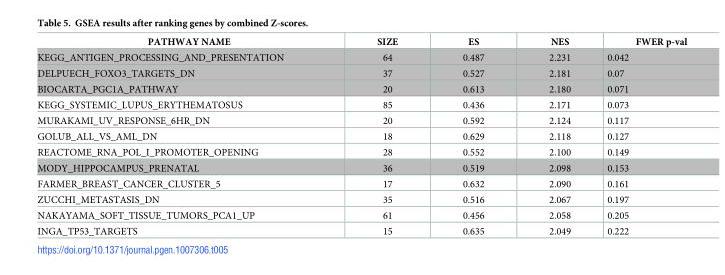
<table><thead><tr><td>PATHWAY NAME</td><td>SIZE</td><td>ES</td><td>NES</td><td>FWER p-val</td></tr></thead><tbody><tr><td>KEGG_ANTIGEN_PROCESSING_AND_PRESENTATION</td><td>64</td><td>0.487</td><td>2.231</td><td>0.042</td></tr><tr><td>DELPUECH_FOXO3_TARGETS_DN</td><td>37</td><td>0.527</td><td>2.181</td><td>0.07</td></tr><tr><td>BIOCARTA_PGC1A_PATHWAY</td><td>20</td><td>0.613</td><td>2.180</td><td>0.071</td></tr><tr><td>KEGG_SYSTEMIC_LUPUS_ERYTHEMATOSUS</td><td>85</td><td>0.436</td><td>2.171</td><td>0.073</td></tr><tr><td>MURAKAMI_UV_RESPONSE_6HR_DN</td><td>20</td><td>0.592</td><td>2.124</td><td>0.117</td></tr><tr><td>GOLUB_ALL_VS_AML_DN</td><td>18</td><td>0.629</td><td>2.118</td><td>0.127</td></tr><tr><td>REACTOME_RNA_POL_I_PROMOTER_OPENING</td><td>28</td><td>0.552</td><td>2.100</td><td>0.149</td></tr><tr><td>MODY_HIPPOCAMPUS_PRENATAL</td><td>36</td><td>0.519</td><td>2.098</td><td>0.153</td></tr><tr><td>FARMER_BREAST_CANCER_CLUSTER_5</td><td>17</td><td>0.632</td><td>2.090</td><td>0.161</td></tr><tr><td>ZUCCHI_METASTASIS_DN</td><td>35</td><td>0.516</td><td>2.067</td><td>0.197</td></tr><tr><td>NAKAYAMA_SOFT_TISSUE_TUMORS_PCA1_UP</td><td>61</td><td>0.456</td><td>2.058</td><td>0.205</td></tr><tr><td>INGA_TP53_TARGETS</td><td>15</td><td>0.635</td><td>2.049</td><td>0.222</td></tr></tbody></table>